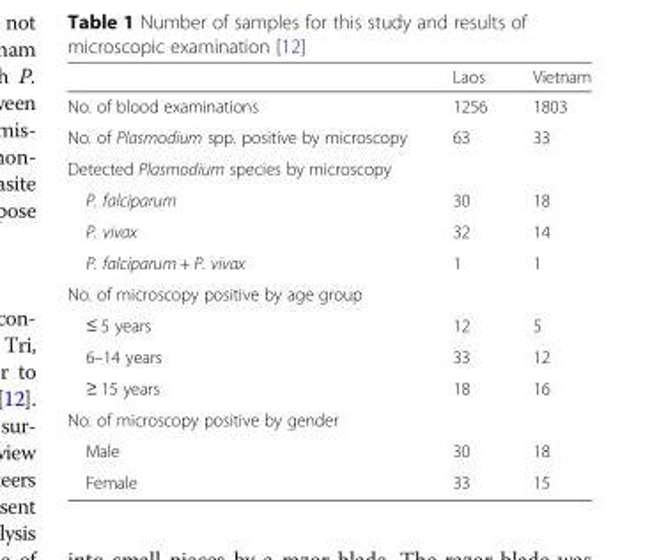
<table><thead><tr><td></td><td>Laos</td><td>Vietnam</td></tr></thead><tbody><tr><td>No. of blood examinations</td><td>1256</td><td>1803</td></tr><tr><td>No. of Plasmodium spp. positive by microscopy</td><td>63</td><td>33</td></tr><tr><td colspan="3">Detected Plasmodium species by microscopy</td></tr><tr><td>P. falciparum</td><td>30</td><td>18</td></tr><tr><td>P. vivax</td><td>32</td><td>14</td></tr><tr><td>P. falciparum + P. vivax</td><td>1</td><td>1</td></tr><tr><td colspan="3">No. of microscopy positive by age group</td></tr><tr><td>≤ 5 years</td><td>12</td><td>5</td></tr><tr><td>6–14 years</td><td>33</td><td>12</td></tr><tr><td>≥ 15 years</td><td>18</td><td>16</td></tr><tr><td colspan="3">No. of microscopy positive by gender</td></tr><tr><td>Male</td><td>30</td><td>18</td></tr><tr><td>Female</td><td>33</td><td>15</td></tr></tbody></table>